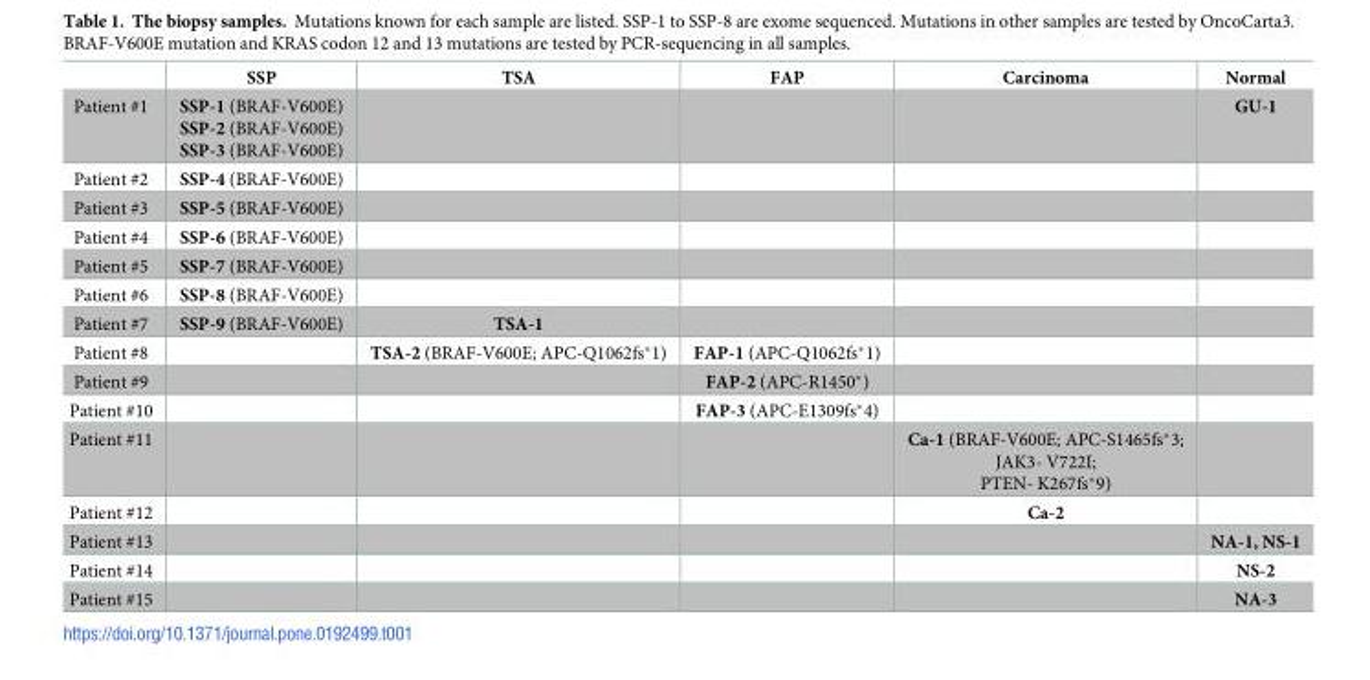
<table><thead><tr><td></td><td>SSP</td><td>TSA</td><td>FAP</td><td>Carcinoma</td><td>Normal</td></tr></thead><tbody><tr><td>Patient #1</td><td>SSP-1 (BRAF-V600E) SSP-2 (BRAF-V600E) SSP-3 (BRAF-V600E)</td><td></td><td></td><td></td><td>GU-1</td></tr><tr><td>Patient #2</td><td>SSP-4 (BRAF-V600E)</td><td></td><td></td><td></td><td></td></tr><tr><td>Patient #3</td><td>SSP-5 (BRAF-V600E)</td><td></td><td></td><td></td><td></td></tr><tr><td>Patient #4</td><td>SSP-6 (BRAF-V600E)</td><td></td><td></td><td></td><td></td></tr><tr><td>Patient #5</td><td>SSP-7 (BRAF-V600E)</td><td></td><td></td><td></td><td></td></tr><tr><td>Patient #6</td><td>SSP-8 (BRAF-V600E)</td><td></td><td></td><td></td><td></td></tr><tr><td>Patient #7</td><td>SSP-9 (BRAF-V600E)</td><td>TSA-1</td><td></td><td></td><td></td></tr><tr><td>Patient #8</td><td></td><td>TSA-2 (BRAF-V600E; APC-Q1062fs*1)</td><td>FAP-1 (APC-Q1062fs*1)</td><td></td><td></td></tr><tr><td>Patient #9</td><td></td><td></td><td>FAP-2 (APC-R1450*)</td><td></td><td></td></tr><tr><td>Patient #10</td><td></td><td></td><td>FAP-3 (APC-E1309fs*4)</td><td></td><td></td></tr><tr><td>Patient #11</td><td></td><td></td><td></td><td>Ca-1 (BRAF-V600E; APC-S1465fs*3; JAK3- V722I; PTEN- K267fs*9)</td><td></td></tr><tr><td>Patient #12</td><td></td><td></td><td></td><td>Ca-2</td><td></td></tr><tr><td>Patient #13</td><td></td><td></td><td></td><td></td><td>NA-1, NS-1</td></tr><tr><td>Patient #14</td><td></td><td></td><td></td><td></td><td>NS-2</td></tr><tr><td>Patient #15</td><td></td><td></td><td></td><td></td><td>NA-3</td></tr></tbody></table>